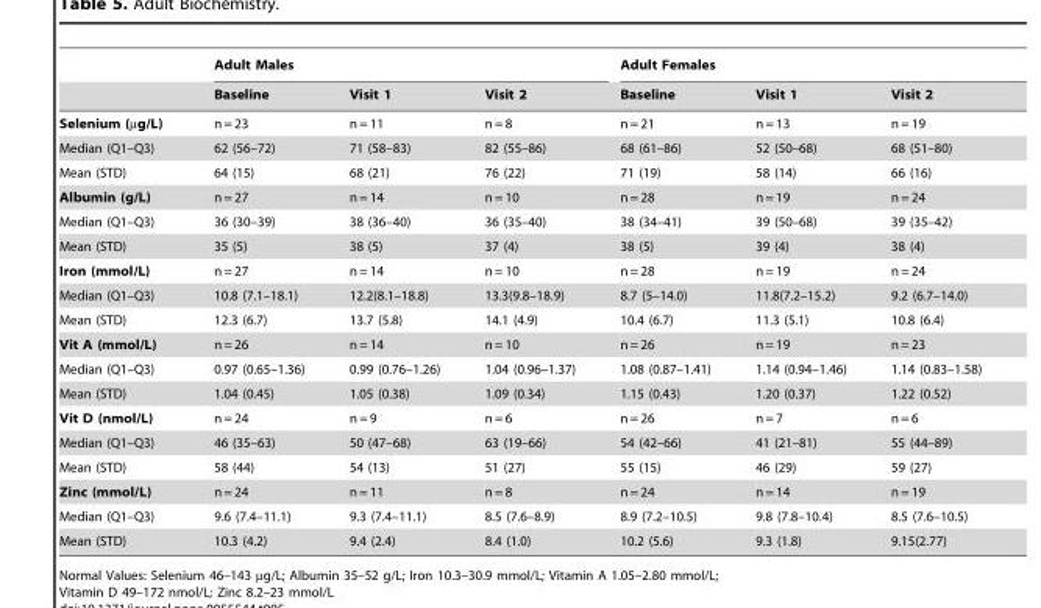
<table><thead><tr><td rowspan="2"></td><td colspan="3">Adult Males</td><td colspan="3">Adult Females</td></tr><tr><td>Baseline</td><td>Visit 1</td><td>Visit 2</td><td>Baseline</td><td>Visit 1</td><td>Visit 2</td></tr></thead><tbody><tr><td>Selenium (µg/L)</td><td>n = 23</td><td>n = 11</td><td>n = 8</td><td>n = 21</td><td>n = 13</td><td>n = 19</td></tr><tr><td>Median (Q1–Q3)</td><td>62 (56–72)</td><td>71 (58–83)</td><td>82 (55–86)</td><td>68 (61–86)</td><td>52 (50–68)</td><td>68 (51–80)</td></tr><tr><td>Mean (STD)</td><td>64 (15)</td><td>68 (21)</td><td>76 (22)</td><td>71 (19)</td><td>58 (14)</td><td>66 (16)</td></tr><tr><td>Albumin (g/L)</td><td>n = 27</td><td>n = 14</td><td>n = 10</td><td>n = 28</td><td>n = 19</td><td>n = 24</td></tr><tr><td>Median (Q1–Q3)</td><td>36 (30–39)</td><td>38 (36–40)</td><td>36 (35–40)</td><td>38 (34–41)</td><td>39 (50–68)</td><td>39 (35–42)</td></tr><tr><td>Mean (STD)</td><td>35 (5)</td><td>38 (5)</td><td>37 (4)</td><td>38 (5)</td><td>39 (4)</td><td>38 (4)</td></tr><tr><td>Iron (mmol/L)</td><td>n = 27</td><td>n = 14</td><td>n = 10</td><td>n = 28</td><td>n = 19</td><td>n = 24</td></tr><tr><td>Median (Q1–Q3)</td><td>10.8 (7.1–18.1)</td><td>12.2(8.1–18.8)</td><td>13.3(9.8–18.9)</td><td>8.7 (5–14.0)</td><td>11.8(7.2–15.2)</td><td>9.2 (6.7–14.0)</td></tr><tr><td>Mean (STD)</td><td>12.3 (6.7)</td><td>13.7 (5.8)</td><td>14.1 (4.9)</td><td>10.4 (6.7)</td><td>11.3 (5.1)</td><td>10.8 (6.4)</td></tr><tr><td>Vit A (mmol/L)</td><td>n = 26</td><td>n = 14</td><td>n = 10</td><td>n = 26</td><td>n = 19</td><td>n = 23</td></tr><tr><td>Median (Q1–Q3)</td><td>0.97 (0.65–1.36)</td><td>0.99 (0.76–1.26)</td><td>1.04 (0.96–1.37)</td><td>1.08 (0.87–1.41)</td><td>1.14 (0.94–1.46)</td><td>1.14 (0.83–1.58)</td></tr><tr><td>Mean (STD)</td><td>1.04 (0.45)</td><td>1.05 (0.38)</td><td>1.09 (0.34)</td><td>1.15 (0.43)</td><td>1.20 (0.37)</td><td>1.22 (0.52)</td></tr><tr><td>Vit D (nmol/L)</td><td>n = 24</td><td>n = 9</td><td>n = 6</td><td>n = 26</td><td>n = 7</td><td>n = 6</td></tr><tr><td>Median (Q1–Q3)</td><td>46 (35–63)</td><td>50 (47–68)</td><td>63 (19–66)</td><td>54 (42–66)</td><td>41 (21–81)</td><td>55 (44–89)</td></tr><tr><td>Mean (STD)</td><td>58 (44)</td><td>54 (13)</td><td>51 (27)</td><td>55 (15)</td><td>46 (29)</td><td>59 (27)</td></tr><tr><td>Zinc (mmol/L)</td><td>n = 24</td><td>n = 11</td><td>n = 8</td><td>n = 24</td><td>n = 14</td><td>n = 19</td></tr><tr><td>Median (Q1–Q3)</td><td>9.6 (7.4–11.1)</td><td>9.3 (7.4–11.1)</td><td>8.5 (7.6–8.9)</td><td>8.9 (7.2–10.5)</td><td>9.8 (7.8–10.4)</td><td>8.5 (7.6–10.5)</td></tr><tr><td>Mean (STD)</td><td>10.3 (4.2)</td><td>9.4 (2.4)</td><td>8.4 (1.0)</td><td>10.2 (5.6)</td><td>9.3 (1.8)</td><td>9.15(2.77)</td></tr></tbody></table>